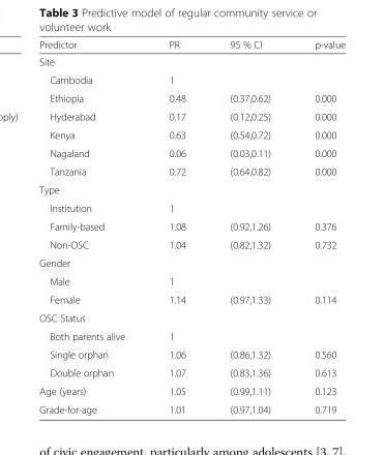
<table><thead><tr><td>Predictor</td><td>PR</td><td>95 % CI</td><td>p-value</td></tr></thead><tbody><tr><td colspan="4">Site</td></tr><tr><td>Cambodia</td><td>1</td><td></td><td></td></tr><tr><td>Ethiopia</td><td>0.48</td><td>(0.37,0.62)</td><td>0.000</td></tr><tr><td>Hyderabad</td><td>0.17</td><td>(0.12,0.25)</td><td>0.000</td></tr><tr><td>Kenya</td><td>0.63</td><td>(0.54,0.72)</td><td>0.000</td></tr><tr><td>Nagaland</td><td>0.06</td><td>(0.03,0.11)</td><td>0.000</td></tr><tr><td>Tanzania</td><td>0.72</td><td>(0.64,0.82)</td><td>0.000</td></tr><tr><td colspan="4">Type</td></tr><tr><td>Institution</td><td>1</td><td></td><td></td></tr><tr><td>Family-based</td><td>1.08</td><td>(0.92,1.26)</td><td>0.376</td></tr><tr><td>Non-OSC</td><td>1.04</td><td>(0.82,1.32)</td><td>0.732</td></tr><tr><td colspan="4">Gender</td></tr><tr><td>Male</td><td>1</td><td></td><td></td></tr><tr><td>Female</td><td>1.14</td><td>(0.97,1.33)</td><td>0.114</td></tr><tr><td colspan="4">OSC Status</td></tr><tr><td>Both parents alive</td><td>1</td><td></td><td></td></tr><tr><td>Single orphan</td><td>1.06</td><td>(0.86,1.32)</td><td>0.560</td></tr><tr><td>Double orphan</td><td>1.07</td><td>(0.83,1.36)</td><td>0.613</td></tr><tr><td>Age (years)</td><td>1.05</td><td>(0.99,1.11)</td><td>0.123</td></tr><tr><td>Grade-for-age</td><td>1.01</td><td>(0.97,1.04)</td><td>0.719</td></tr></tbody></table>